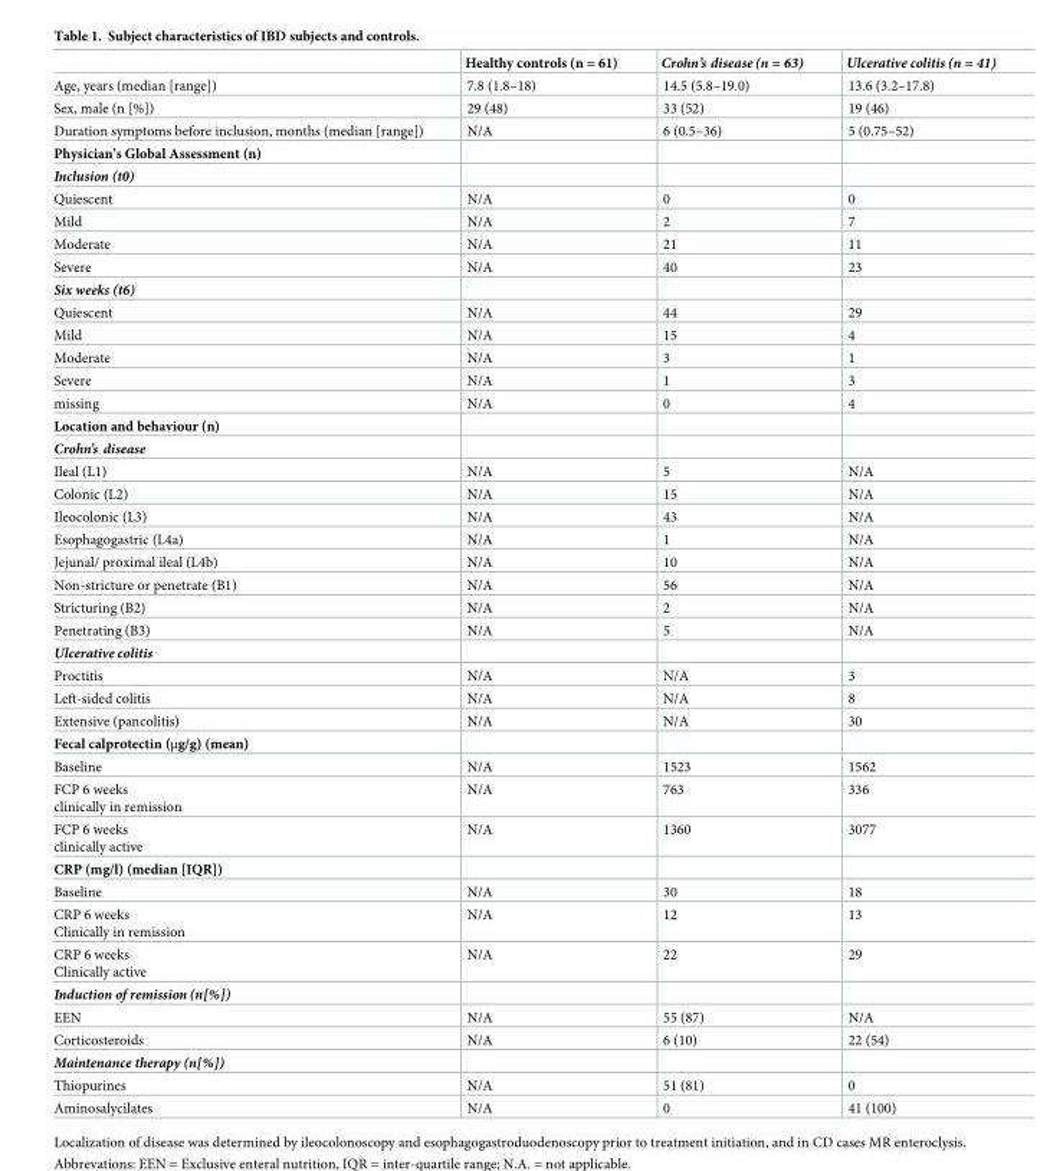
<table><thead><tr><td></td><td>Healthy controls (n = 61)</td><td>Crohn’s disease (n = 63)</td><td>Ulcerative colitis (n = 41)</td></tr></thead><tbody><tr><td>Age, years (median [range])</td><td>7.8 (1.8–18)</td><td>14.5 (5.8–19.0)</td><td>13.6 (3.2–17.8)</td></tr><tr><td>Sex, male (n [%])</td><td>29 (48)</td><td>33 (52)</td><td>19 (46)</td></tr><tr><td>Duration symptoms before inclusion, months (median [range])</td><td>N/A</td><td>6 (0.5–36)</td><td>5 (0.75–52)</td></tr><tr><td colspan="4">Physician’s Global Assessment (n)</td></tr><tr><td colspan="4">Inclusion (t0)</td></tr><tr><td>Quiescent</td><td>N/A</td><td>0</td><td>0</td></tr><tr><td>Mild</td><td>N/A</td><td>2</td><td>7</td></tr><tr><td>Moderate</td><td>N/A</td><td>21</td><td>11</td></tr><tr><td>Severe</td><td>N/A</td><td>40</td><td>23</td></tr><tr><td colspan="4">Six weeks (t6)</td></tr><tr><td>Quiescent</td><td>N/A</td><td>44</td><td>29</td></tr><tr><td>Mild</td><td>N/A</td><td>15</td><td>4</td></tr><tr><td>Moderate</td><td>N/A</td><td>3</td><td>1</td></tr><tr><td>Severe</td><td>N/A</td><td>1</td><td>3</td></tr><tr><td>missing</td><td>N/A</td><td>0</td><td>4</td></tr><tr><td colspan="4">Location and behaviour (n)</td></tr><tr><td colspan="4">Crohn’s disease</td></tr><tr><td>Ileal (L1)</td><td>N/A</td><td>5</td><td>N/A</td></tr><tr><td>Colonic (L2)</td><td>N/A</td><td>15</td><td>N/A</td></tr><tr><td>Ileocolonic (L3)</td><td>N/A</td><td>43</td><td>N/A</td></tr><tr><td>Esophagogastric (L4a)</td><td>N/A</td><td>1</td><td>N/A</td></tr><tr><td>Jejunal/ proximal ileal (L4b)</td><td>N/A</td><td>10</td><td>N/A</td></tr><tr><td>Non-stricture or penetrate (B1)</td><td>N/A</td><td>56</td><td>N/A</td></tr><tr><td>Stricturing (B2)</td><td>N/A</td><td>2</td><td>N/A</td></tr><tr><td>Penetrating (B3)</td><td>N/A</td><td>5</td><td>N/A</td></tr><tr><td colspan="4">Ulcerative colitis</td></tr><tr><td>Proctitis</td><td>N/A</td><td>N/A</td><td>3</td></tr><tr><td>Left-sided colitis</td><td>N/A</td><td>N/A</td><td>8</td></tr><tr><td>Extensive (pancolitis)</td><td>N/A</td><td>N/A</td><td>30</td></tr><tr><td colspan="4">Fecal calprotectin (μg/g) (mean)</td></tr><tr><td>Baseline</td><td>N/A</td><td>1523</td><td>1562</td></tr><tr><td>FCP 6 weeks clinically in remission</td><td>N/A</td><td>763</td><td>336</td></tr><tr><td>FCP 6 weeks clinically active</td><td>N/A</td><td>1360</td><td>3077</td></tr><tr><td colspan="4">CRP (mg/l) (median [IQR])</td></tr><tr><td>Baseline</td><td>N/A</td><td>30</td><td>18</td></tr><tr><td>CRP 6 weeks Clinically in remission</td><td>N/A</td><td>12</td><td>13</td></tr><tr><td>CRP 6 weeks Clinically active</td><td>N/A</td><td>22</td><td>29</td></tr><tr><td colspan="4">Induction of remission (n[%])</td></tr><tr><td>EEN</td><td>N/A</td><td>55 (87)</td><td>N/A</td></tr><tr><td>Corticosteroids</td><td>N/A</td><td>6 (10)</td><td>22 (54)</td></tr><tr><td colspan="4">Maintenance therapy (n[%])</td></tr><tr><td>Thiopurines</td><td>N/A</td><td>51 (81)</td><td>0</td></tr><tr><td>Aminosalycilates</td><td>N/A</td><td>0</td><td>41 (100)</td></tr></tbody></table>